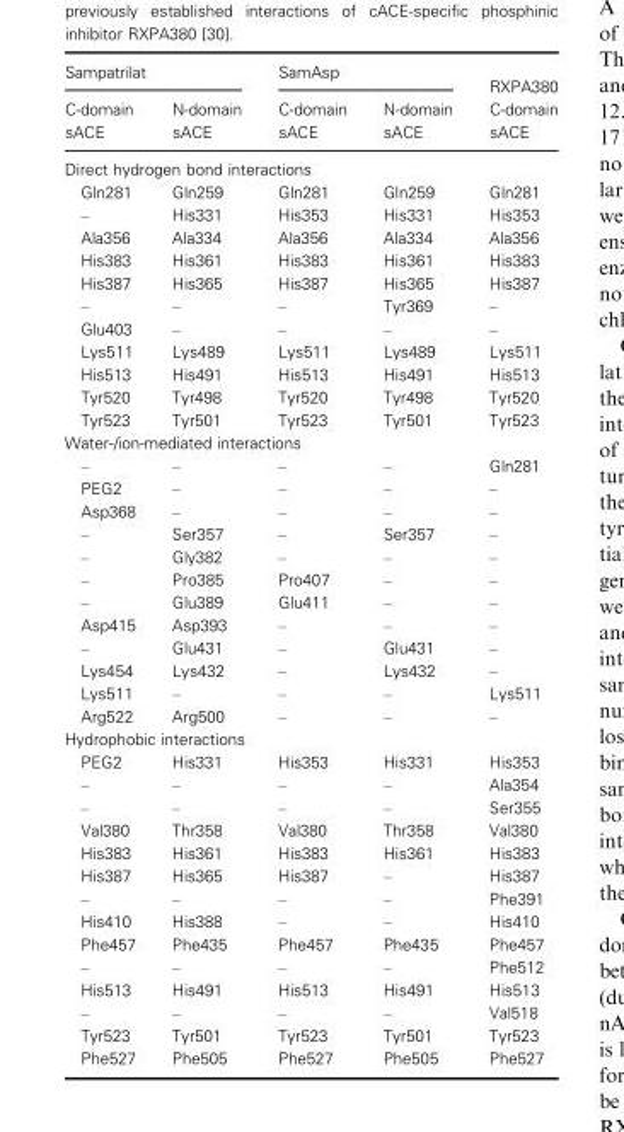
<table><thead><tr><td colspan="2">Sampatrilat</td><td colspan="2">SamAsp</td><td rowspan="2">RXPA380 C-domain sACE</td></tr><tr><td>C-domain sACE</td><td>N-domain sACE</td><td>C-domain sACE</td><td>N-domain sACE</td></tr></thead><tbody><tr><td colspan="5">Direct hydrogen bond interactions</td></tr><tr><td>Gln281</td><td>Gln259</td><td>Gln281</td><td>Gln259</td><td>Gln281</td></tr><tr><td>–</td><td>His331</td><td>His353</td><td>His331</td><td>His353</td></tr><tr><td>Ala356</td><td>Ala334</td><td>Ala356</td><td>Ala334</td><td>Ala356</td></tr><tr><td>His383</td><td>His361</td><td>His383</td><td>His361</td><td>His383</td></tr><tr><td>His387</td><td>His365</td><td>His387</td><td>His365</td><td>His387</td></tr><tr><td>–</td><td>–</td><td>–</td><td>Tyr369</td><td>–</td></tr><tr><td>Glu403</td><td>–</td><td>–</td><td>–</td><td>–</td></tr><tr><td>Lys511</td><td>Lys489</td><td>Lys511</td><td>Lys489</td><td>Lys511</td></tr><tr><td>His513</td><td>His491</td><td>His513</td><td>His491</td><td>His513</td></tr><tr><td>Tyr520</td><td>Tyr498</td><td>Tyr520</td><td>Tyr498</td><td>Tyr520</td></tr><tr><td>Tyr523</td><td>Tyr501</td><td>Tyr523</td><td>Tyr501</td><td>Tyr523</td></tr><tr><td colspan="5">Water-/ion-mediated interactions</td></tr><tr><td>–</td><td>–</td><td>–</td><td>–</td><td>Gln281</td></tr><tr><td>PEG2</td><td>–</td><td>–</td><td>–</td><td>–</td></tr><tr><td>Asp368</td><td>–</td><td>–</td><td>–</td><td>–</td></tr><tr><td>–</td><td>Ser357</td><td>–</td><td>Ser357</td><td>–</td></tr><tr><td>–</td><td>Gly382</td><td>–</td><td>–</td><td>–</td></tr><tr><td>–</td><td>Pro385</td><td>Pro407</td><td>–</td><td>–</td></tr><tr><td>–</td><td>Glu389</td><td>Glu411</td><td>–</td><td>–</td></tr><tr><td>Asp415</td><td>Asp393</td><td>–</td><td>–</td><td>–</td></tr><tr><td>–</td><td>Glu431</td><td>–</td><td>Glu431</td><td>–</td></tr><tr><td>Lys454</td><td>Lys432</td><td>–</td><td>Lys432</td><td>–</td></tr><tr><td>Lys511</td><td>–</td><td>–</td><td>–</td><td>Lys511</td></tr><tr><td>Arg522</td><td>Arg500</td><td>–</td><td>–</td><td>–</td></tr><tr><td colspan="5">Hydrophobic interactions</td></tr><tr><td>PEG2</td><td>His331</td><td>His353</td><td>His331</td><td>His353</td></tr><tr><td>–</td><td>–</td><td>–</td><td>–</td><td>Ala354</td></tr><tr><td>–</td><td>–</td><td>–</td><td>–</td><td>Ser355</td></tr><tr><td>Val380</td><td>Thr358</td><td>Val380</td><td>Thr358</td><td>Val380</td></tr><tr><td>His383</td><td>His361</td><td>His383</td><td>His361</td><td>His383</td></tr><tr><td>His387</td><td>His365</td><td>His387</td><td>–</td><td>His387</td></tr><tr><td>–</td><td>–</td><td>–</td><td>–</td><td>Phe391</td></tr><tr><td>His410</td><td>His388</td><td>–</td><td>–</td><td>His410</td></tr><tr><td>Phe457</td><td>Phe435</td><td>Phe457</td><td>Phe435</td><td>Phe457</td></tr><tr><td>–</td><td>–</td><td>–</td><td>–</td><td>Phe512</td></tr><tr><td>His513</td><td>His491</td><td>His513</td><td>His491</td><td>His513</td></tr><tr><td>–</td><td>–</td><td>–</td><td>–</td><td>Val518</td></tr><tr><td>Tyr523</td><td>Tyr501</td><td>Tyr523</td><td>Tyr501</td><td>Tyr523</td></tr><tr><td>Phe527</td><td>Phe505</td><td>Phe527</td><td>Phe505</td><td>Phe527</td></tr></tbody></table>